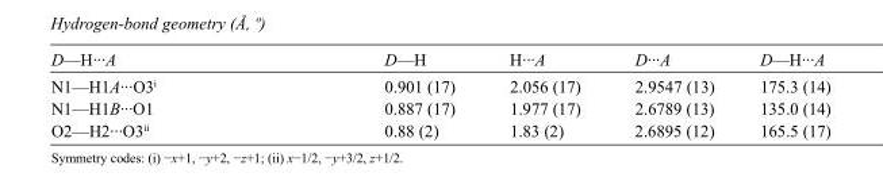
<table><tbody><tr><td>D—H···A</td><td>D—H</td><td>H···A</td><td>D···A</td><td>D—H···A</td></tr><tr><td>N1—H1A···O3<sup>i</sup></td><td>0.901 (17)</td><td>2.056 (17)</td><td>2.9547 (13)</td><td>175.3 (14)</td></tr><tr><td>N1—H1B···O1</td><td>0.887 (17)</td><td>1.977 (17)</td><td>2.6789 (13)</td><td>135.0 (14)</td></tr><tr><td>O2—H2···O3<sup>ii</sup></td><td>0.88 (2)</td><td>1.83 (2)</td><td>2.6895 (12)</td><td>165.5 (17)</td></tr></tbody></table>